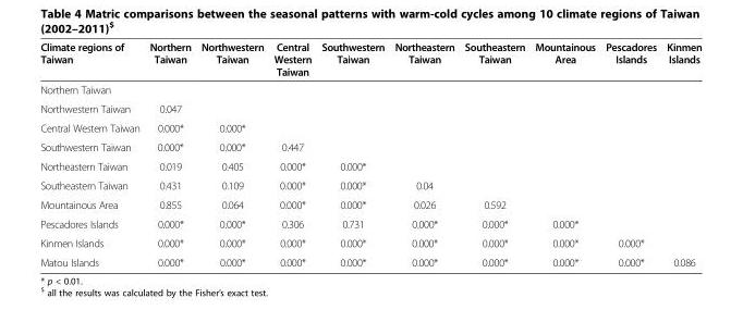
<table><thead><tr><td>Climate regions of Taiwan</td><td>Northern Taiwan</td><td>Northwestern Taiwan</td><td>Central Western Taiwan</td><td>Southwestern Taiwan</td><td>Northeastern Taiwan</td><td>Southeastern Taiwan</td><td>Mountainous Area</td><td>Pescadores Islands</td><td>Kinmen Islands</td></tr></thead><tbody><tr><td colspan="10">Northern Taiwan</td></tr><tr><td>Northwestern Taiwan</td><td>0.047</td><td></td><td></td><td></td><td></td><td></td><td></td><td></td><td></td></tr><tr><td>Central Western Taiwan</td><td>0.000*</td><td>0.000*</td><td></td><td></td><td></td><td></td><td></td><td></td><td></td></tr><tr><td>Southwestern Taiwan</td><td>0.000*</td><td>0.000*</td><td>0.447</td><td></td><td></td><td></td><td></td><td></td><td></td></tr><tr><td>Northeastern Taiwan</td><td>0.019</td><td>0.405</td><td>0.000*</td><td>0.000*</td><td></td><td></td><td></td><td></td><td></td></tr><tr><td>Southeastern Taiwan</td><td>0.431</td><td>0.109</td><td>0.000*</td><td>0.000*</td><td>0.04</td><td></td><td></td><td></td><td></td></tr><tr><td>Mountainous Area</td><td>0.855</td><td>0.064</td><td>0.000*</td><td>0.000*</td><td>0.026</td><td>0.592</td><td></td><td></td><td></td></tr><tr><td>Pescadores Islands</td><td>0.000*</td><td>0.000*</td><td>0.306</td><td>0.731</td><td>0.000*</td><td>0.000*</td><td>0.000*</td><td></td><td></td></tr><tr><td>Kinmen Islands</td><td>0.000*</td><td>0.000*</td><td>0.000*</td><td>0.000*</td><td>0.000*</td><td>0.000*</td><td>0.000*</td><td>0.000*</td><td></td></tr><tr><td>Matou Islands</td><td>0.000*</td><td>0.000*</td><td>0.000*</td><td>0.000*</td><td>0.000*</td><td>0.000*</td><td>0.000*</td><td>0.000*</td><td>0.086</td></tr></tbody></table>